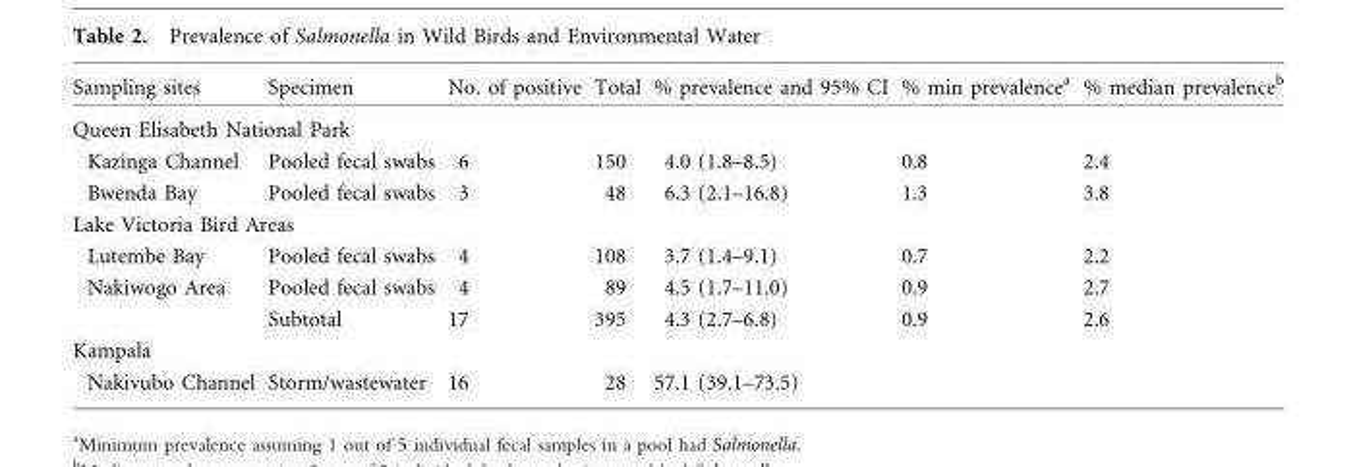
<table><thead><tr><td>Sampling sites</td><td>Specimen</td><td>No. of positive</td><td>Total</td><td>% prevalence and 95% CI</td><td>% min prevalence<sup>a</sup></td><td>% median prevalence<sup>b</sup></td></tr></thead><tbody><tr><td colspan="7">Queen Elisabeth National Park</td></tr><tr><td>Kazinga Channel</td><td>Pooled fecal swabs</td><td>6</td><td>150</td><td>4.0 (1.8–8.5)</td><td>0.8</td><td>2.4</td></tr><tr><td>Bwenda Bay</td><td>Pooled fecal swabs</td><td>3</td><td>48</td><td>6.3 (2.1–16.8)</td><td>1.3</td><td>3.8</td></tr><tr><td colspan="7">Lake Victoria Bird Areas</td></tr><tr><td>Lutembe Bay</td><td>Pooled fecal swabs</td><td>4</td><td>108</td><td>3.7 (1.4–9.1)</td><td>0.7</td><td>2.2</td></tr><tr><td rowspan="2">Nakiwogo Area</td><td>Pooled fecal swabs</td><td>4</td><td>89</td><td>4.5 (1.7–11.0)</td><td>0.9</td><td>2.7</td></tr><tr><td>Subtotal</td><td>17</td><td>395</td><td>4.3 (2.7–6.8)</td><td>0.9</td><td>2.6</td></tr><tr><td colspan="7">Kampala</td></tr><tr><td>Nakivubo Channel</td><td>Storm/wastewater</td><td>16</td><td>28</td><td>57.1 (39.1–73.5)</td><td></td><td></td></tr></tbody></table>